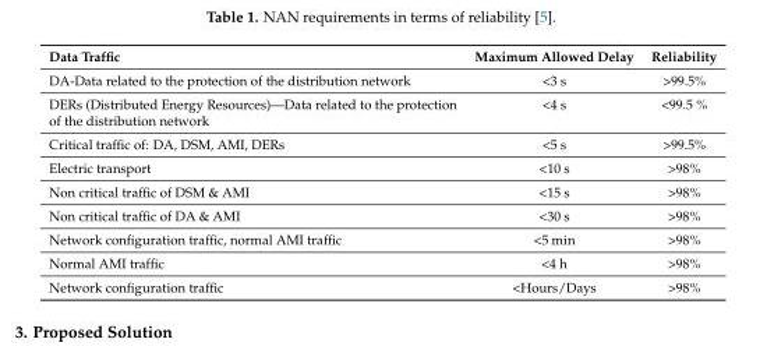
<table><thead><tr><td>Data Traffic</td><td>Maximum Allowed Delay</td><td>Reliability</td></tr></thead><tbody><tr><td>DA-Data related to the protection of the distribution network</td><td>&lt;3 s</td><td>&gt;99.5%</td></tr><tr><td>DERs (Distributed Energy Resources)—Data related to the protection of the distribution network</td><td>&lt;4 s</td><td>&lt;99.5 %</td></tr><tr><td>Critical traffic of: DA, DSM, AMI, DERs</td><td>&lt;5 s</td><td>&gt;99.5%</td></tr><tr><td>Electric transport</td><td>&lt;10 s</td><td>&gt;98%</td></tr><tr><td>Non critical traffic of DSM &amp; AMI</td><td>&lt;15 s</td><td>&gt;98%</td></tr><tr><td>Non critical traffic of DA &amp; AMI</td><td>&lt;30 s</td><td>&gt;98%</td></tr><tr><td>Network configuration traffic, normal AMI traffic</td><td>&lt;5 min</td><td>&gt;98%</td></tr><tr><td>Normal AMI traffic</td><td>&lt;4 h</td><td>&gt;98%</td></tr><tr><td>Network configuration traffic</td><td>&lt;Hours/Days</td><td>&gt;98%</td></tr></tbody></table>